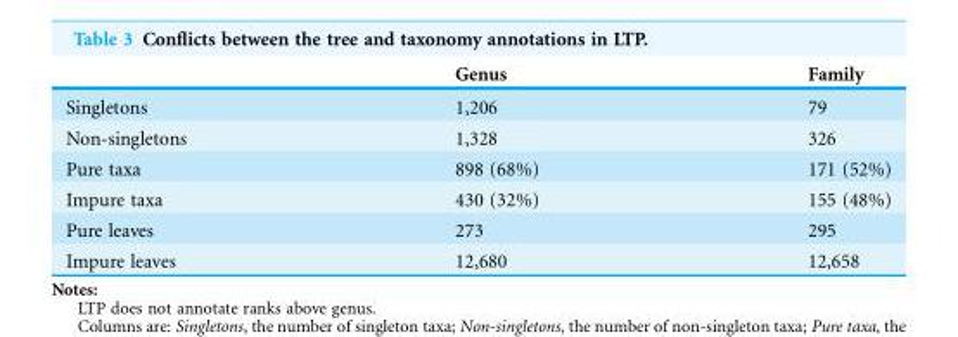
<table><thead><tr><td></td><td>Genus</td><td>Family</td></tr></thead><tbody><tr><td>Singletons</td><td>1,206</td><td>79</td></tr><tr><td>Non-singletons</td><td>1,328</td><td>326</td></tr><tr><td>Pure taxa</td><td>898 (68%)</td><td>171 (52%)</td></tr><tr><td>Impure taxa</td><td>430 (32%)</td><td>155 (48%)</td></tr><tr><td>Pure leaves</td><td>273</td><td>295</td></tr><tr><td>Impure leaves</td><td>12,680</td><td>12,658</td></tr></tbody></table>